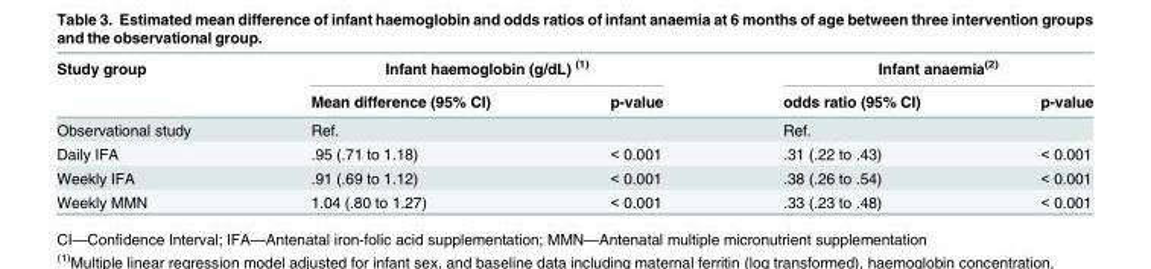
<table><thead><tr><td rowspan="2">Study group</td><td colspan="2">Infant haemoglobin (g/dL) <sup>(1)</sup></td><td colspan="2">Infant anaemia<sup>(2)</sup></td></tr><tr><td>Mean difference (95% CI)</td><td>p-value</td><td>odds ratio (95% CI)</td><td>p-value</td></tr></thead><tbody><tr><td>Observational study</td><td>Ref.</td><td></td><td>Ref.</td><td></td></tr><tr><td>Daily IFA</td><td>.95 (.71 to 1.18)</td><td>&lt; 0.001</td><td>.31 (.22 to .43)</td><td>&lt; 0.001</td></tr><tr><td>Weekly IFA</td><td>.91 (.69 to 1.12)</td><td>&lt; 0.001</td><td>.38 (.26 to .54)</td><td>&lt; 0.001</td></tr><tr><td>Weekly MMN</td><td>1.04 (.80 to 1.27)</td><td>&lt; 0.001</td><td>.33 (.23 to .48)</td><td>&lt; 0.001</td></tr></tbody></table>